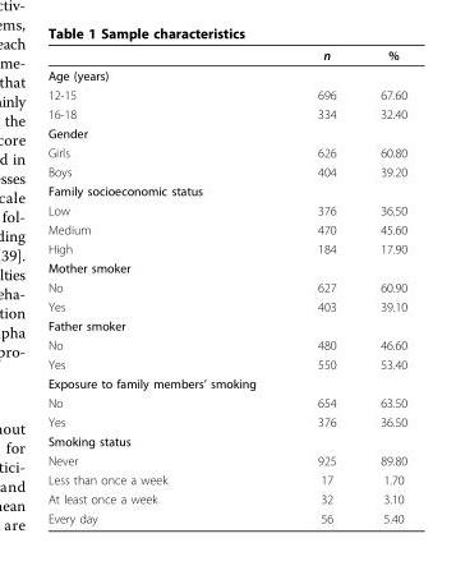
<table><thead><tr><td></td><td>n</td><td>%</td></tr></thead><tbody><tr><td colspan="3">Age (years)</td></tr><tr><td>12-15</td><td>696</td><td>67.60</td></tr><tr><td>16-18</td><td>334</td><td>32.40</td></tr><tr><td colspan="3">Gender</td></tr><tr><td>Girls</td><td>626</td><td>60.80</td></tr><tr><td>Boys</td><td>404</td><td>39.20</td></tr><tr><td colspan="3">Family socioeconomic status</td></tr><tr><td>Low</td><td>376</td><td>36.50</td></tr><tr><td>Medium</td><td>470</td><td>45.60</td></tr><tr><td>High</td><td>184</td><td>17.90</td></tr><tr><td colspan="3">Mother smoker</td></tr><tr><td>No</td><td>627</td><td>60.90</td></tr><tr><td>Yes</td><td>403</td><td>39.10</td></tr><tr><td colspan="3">Father smoker</td></tr><tr><td>No</td><td>480</td><td>46.60</td></tr><tr><td>Yes</td><td>550</td><td>53.40</td></tr><tr><td colspan="3">Exposure to family members’ smoking</td></tr><tr><td>No</td><td>654</td><td>63.50</td></tr><tr><td>Yes</td><td>376</td><td>36.50</td></tr><tr><td colspan="3">Smoking status</td></tr><tr><td>Never</td><td>925</td><td>89.80</td></tr><tr><td>Less than once a week</td><td>17</td><td>1.70</td></tr><tr><td>At least once a week</td><td>32</td><td>3.10</td></tr><tr><td>Every day</td><td>56</td><td>5.40</td></tr></tbody></table>